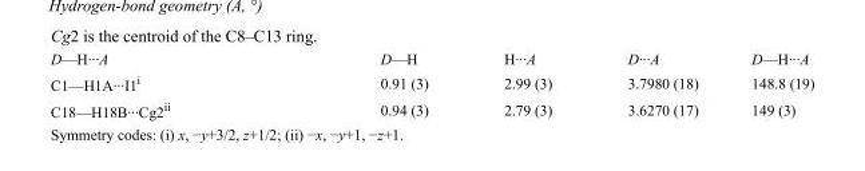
<table><tbody><tr><td>D—H···A</td><td>D—H</td><td>H···A</td><td>D···A</td><td>D—H···A</td></tr><tr><td>C1—H1A···I1<sup>i</sup></td><td>0.91 (3)</td><td>2.99 (3)</td><td>3.7980 (18)</td><td>148.8 (19)</td></tr><tr><td>C18—H18B···Cg2<sup>ii</sup></td><td>0.94 (3)</td><td>2.79 (3)</td><td>3.6270 (17)</td><td>149 (3)</td></tr></tbody></table>